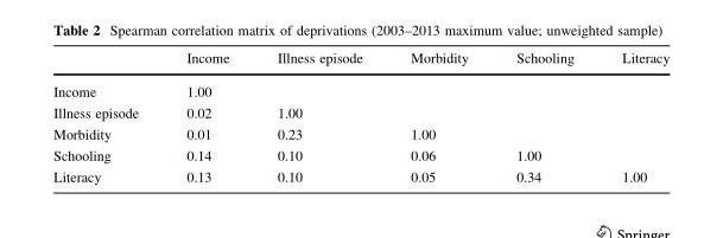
<table><thead><tr><td></td><td>Income</td><td>Illness episode</td><td>Morbidity</td><td>Schooling</td><td>Literacy</td></tr></thead><tbody><tr><td>Income</td><td>1.00</td><td></td><td></td><td></td><td></td></tr><tr><td>Illness episode</td><td>0.02</td><td>1.00</td><td></td><td></td><td></td></tr><tr><td>Morbidity</td><td>0.01</td><td>0.23</td><td>1.00</td><td></td><td></td></tr><tr><td>Schooling</td><td>0.14</td><td>0.10</td><td>0.06</td><td>1.00</td><td></td></tr><tr><td>Literacy</td><td>0.13</td><td>0.10</td><td>0.05</td><td>0.34</td><td>1.00</td></tr></tbody></table>